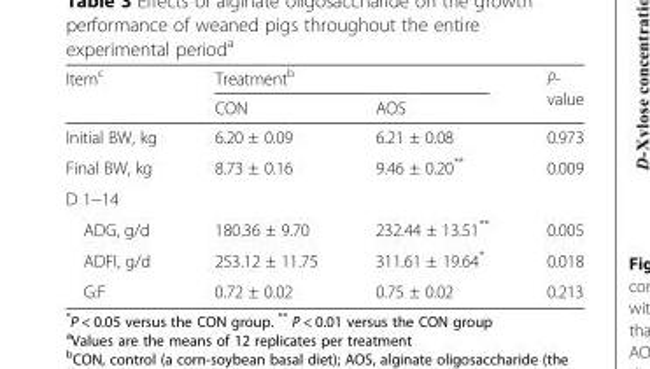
<table><thead><tr><td rowspan="2">Item<sup>c</sup></td><td colspan="2">Treatment<sup>b</sup></td><td rowspan="2">P- value</td></tr><tr><td>CON</td><td>AOS</td></tr></thead><tbody><tr><td>Initial BW, kg</td><td>6.20 ± 0.09</td><td>6.21 ± 0.08</td><td>0.973</td></tr><tr><td>Final BW, kg</td><td>8.73 ± 0.16</td><td>9.46 ± 0.20**</td><td>0.009</td></tr><tr><td colspan="4">D 1−14</td></tr><tr><td>ADG, g/d</td><td>180.36 ± 9.70</td><td>232.44 ± 13.51**</td><td>0.005</td></tr><tr><td>ADFI, g/d</td><td>253.12 ± 11.75</td><td>311.61 ± 19.64*</td><td>0.018</td></tr><tr><td>G:F</td><td>0.72 ± 0.02</td><td>0.75 ± 0.02</td><td>0.213</td></tr></tbody></table>